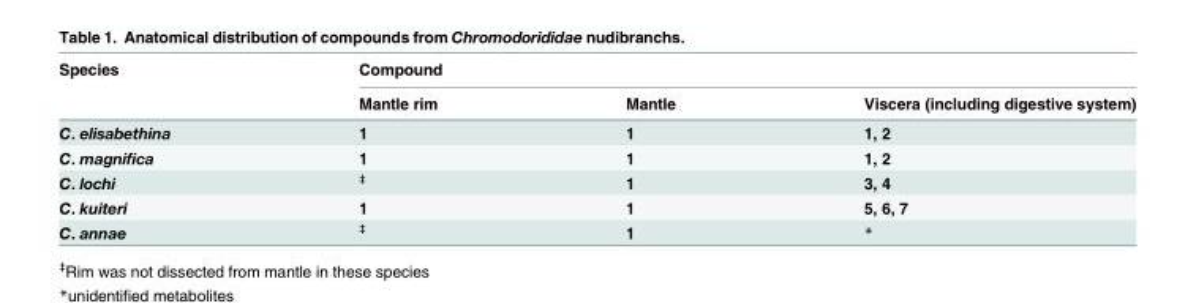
<table><thead><tr><td rowspan="2">Species</td><td colspan="3">Compound</td></tr><tr><td>Mantle rim</td><td>Mantle</td><td>Viscera (including digestive system)</td></tr></thead><tbody><tr><td>C. elisabethina</td><td>1</td><td>1</td><td>1, 2</td></tr><tr><td>C. magnifica</td><td>1</td><td>1</td><td>1, 2</td></tr><tr><td>C. lochi</td><td><sup>‡</sup></td><td>1</td><td>3, 4</td></tr><tr><td>C. kuiteri</td><td>1</td><td>1</td><td>5, 6, 7</td></tr><tr><td>C. annae</td><td><sup>‡</sup></td><td>1</td><td>*</td></tr></tbody></table>